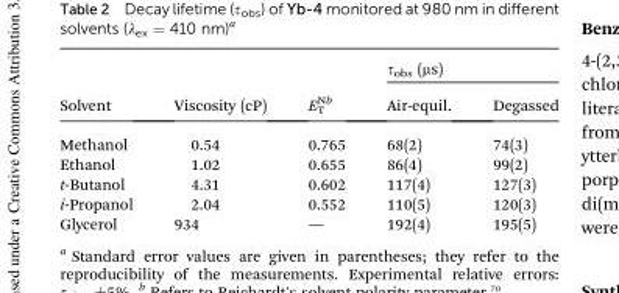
<table><thead><tr><td rowspan="2">Solvent</td><td rowspan="2">Viscosity (cP)</td><td rowspan="2">EN T <sup>b</sup></td><td colspan="2">τ<sub>obs</sub> (μs)</td></tr><tr><td>Air-equil.</td><td>Degassed</td></tr></thead><tbody><tr><td>Methanol</td><td>0.54</td><td>0.765</td><td>68(2)</td><td>74(3)</td></tr><tr><td>Ethanol</td><td>1.02</td><td>0.655</td><td>86(4)</td><td>99(2)</td></tr><tr><td>t-Butanol</td><td>4.31</td><td>0.602</td><td>117(4)</td><td>127(3)</td></tr><tr><td>i-Propanol</td><td>2.04</td><td>0.552</td><td>110(5)</td><td>120(3)</td></tr><tr><td>Glycerol</td><td>934</td><td>—</td><td>192(4)</td><td>195(5)</td></tr></tbody></table>